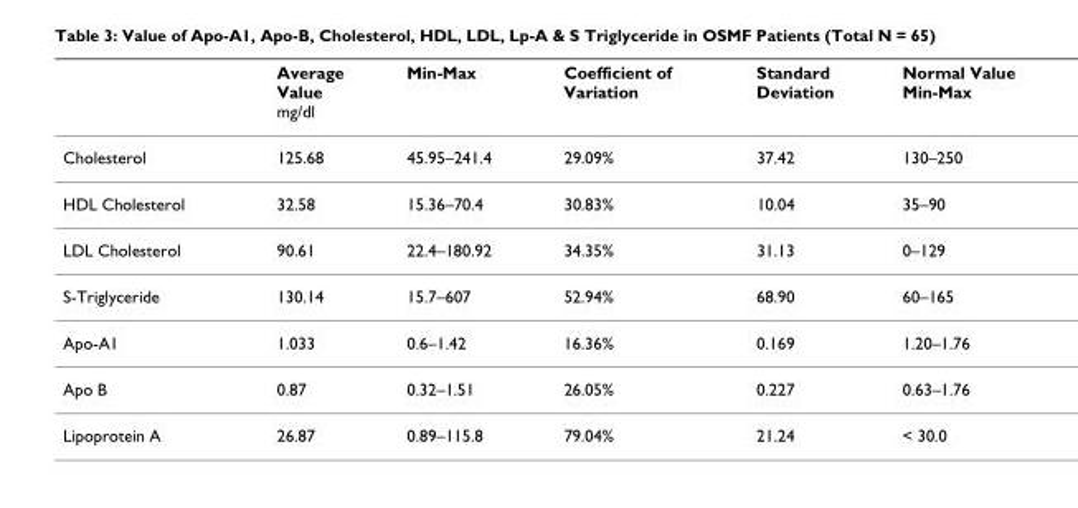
<table><thead><tr><td></td><td>Average Value mg/dl</td><td>Min-Max</td><td>Coefficient of Variation</td><td>Standard Deviation</td><td>Normal Value Min-Max</td></tr></thead><tbody><tr><td>Cholesterol</td><td>125.68</td><td>45.95–241.4</td><td>29.09%</td><td>37.42</td><td>130–250</td></tr><tr><td>HDL Cholesterol</td><td>32.58</td><td>15.36–70.4</td><td>30.83%</td><td>10.04</td><td>35–90</td></tr><tr><td>LDL Cholesterol</td><td>90.61</td><td>22.4–180.92</td><td>34.35%</td><td>31.13</td><td>0–129</td></tr><tr><td>S-Triglyceride</td><td>130.14</td><td>15.7–607</td><td>52.94%</td><td>68.90</td><td>60–165</td></tr><tr><td>Apo-A1</td><td>1.033</td><td>0.6–1.42</td><td>16.36%</td><td>0.169</td><td>1.20–1.76</td></tr><tr><td>Apo B</td><td>0.87</td><td>0.32–1.51</td><td>26.05%</td><td>0.227</td><td>0.63–1.76</td></tr><tr><td>Lipoprotein A</td><td>26.87</td><td>0.89–115.8</td><td>79.04%</td><td>21.24</td><td>&lt; 30.0</td></tr></tbody></table>